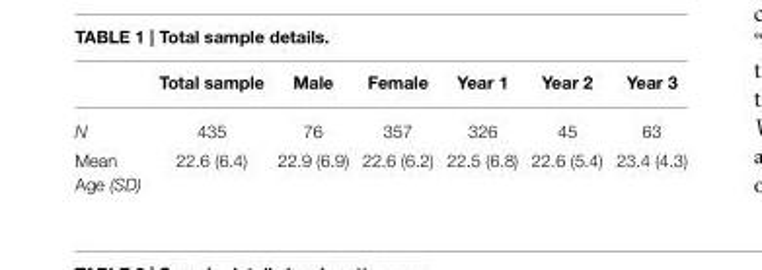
<table><thead><tr><td></td><td>Total sample</td><td>Male</td><td>Female</td><td>Year 1</td><td>Year 2</td><td>Year 3</td></tr></thead><tbody><tr><td>N</td><td>435</td><td>76</td><td>357</td><td>326</td><td>45</td><td>63</td></tr><tr><td>Mean Age (SD)</td><td>22.6 (6.4)</td><td>22.9 (6.9)</td><td>22.6 (6.2)</td><td>22.5 (6.8)</td><td>22.6 (5.4)</td><td>23.4 (4.3)</td></tr></tbody></table>